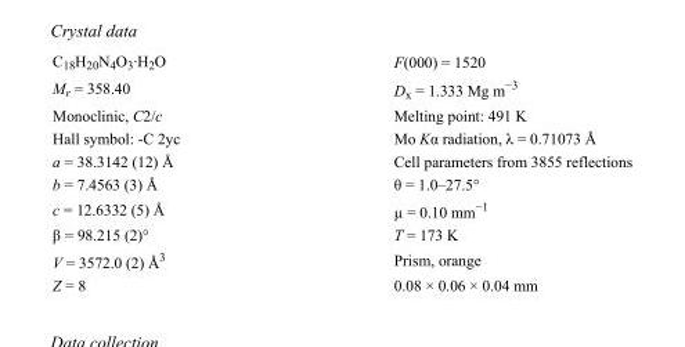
<table><tbody><tr><td>C<sub>18</sub>H<sub>20</sub>N<sub>4</sub>O<sub>3</sub>·H<sub>2</sub>O</td><td>F(000) = 1520</td></tr><tr><td>M<sub>r</sub> = 358.40</td><td>D<sub>x</sub> = 1.333 Mg m<sup>−3</sup></td></tr><tr><td>Monoclinic, C2/c</td><td>Melting point: 491 K</td></tr><tr><td>Hall symbol: -C 2yc</td><td>Mo Kα radiation, λ = 0.71073 Å</td></tr><tr><td>a = 38.3142 (12) Å</td><td>Cell parameters from 3855 reflections</td></tr><tr><td>b = 7.4563 (3) Å</td><td>θ = 1.0–27.5°</td></tr><tr><td>c = 12.6332 (5) Å</td><td>µ = 0.10 mm<sup>−1</sup></td></tr><tr><td>β = 98.215 (2)°</td><td>T = 173 K</td></tr><tr><td>V = 3572.0 (2) Å<sup>3</sup></td><td>Prism, orange</td></tr><tr><td>Z = 8</td><td>0.08 × 0.06 × 0.04 mm</td></tr></tbody></table>